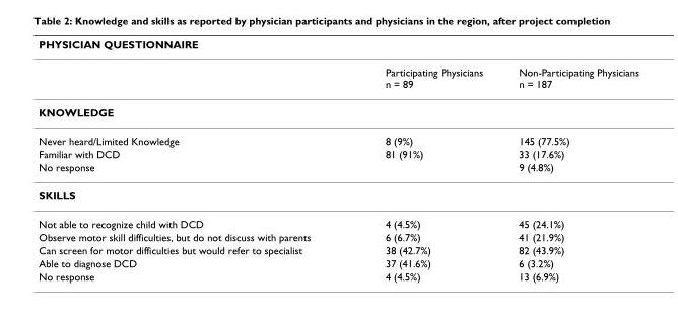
<table><thead><tr><td>PHYSICIAN QUESTIONNAIRE</td><td></td><td></td></tr></thead><tbody><tr><td></td><td>Participating Physicians n = 89</td><td>Non-Participating Physicians n = 187</td></tr><tr><td colspan="3">KNOWLEDGE</td></tr><tr><td>Never heard/Limited Knowledge</td><td>8 (9%)</td><td>145 (77.5%)</td></tr><tr><td>Familiar with DCD</td><td>81 (91%)</td><td>33 (17.6%)</td></tr><tr><td>No response</td><td></td><td>9 (4.8%)</td></tr><tr><td colspan="3">SKILLS</td></tr><tr><td>Not able to recognize child with DCD</td><td>4 (4.5%)</td><td>45 (24.1%)</td></tr><tr><td>Observe motor skill difficulties, but do not discuss with parents</td><td>6 (6.7%)</td><td>41 (21.9%)</td></tr><tr><td>Can screen for motor difficulties but would refer to specialist</td><td>38 (42.7%)</td><td>82 (43.9%)</td></tr><tr><td>Able to diagnose DCD</td><td>37 (41.6%)</td><td>6 (3.2%)</td></tr><tr><td>No response</td><td>4 (4.5%)</td><td>13 (6.9%)</td></tr></tbody></table>